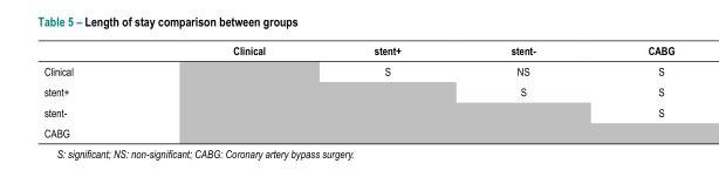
<table><thead><tr><td></td><td>Clinical</td><td>stent+</td><td>stent-</td><td>CABG</td></tr></thead><tbody><tr><td>Clinical</td><td></td><td>S</td><td>NS</td><td>S</td></tr><tr><td>stent+</td><td></td><td></td><td>S</td><td>S</td></tr><tr><td>stent-</td><td></td><td></td><td></td><td>S</td></tr><tr><td>CABG</td><td></td><td></td><td></td><td></td></tr></tbody></table>